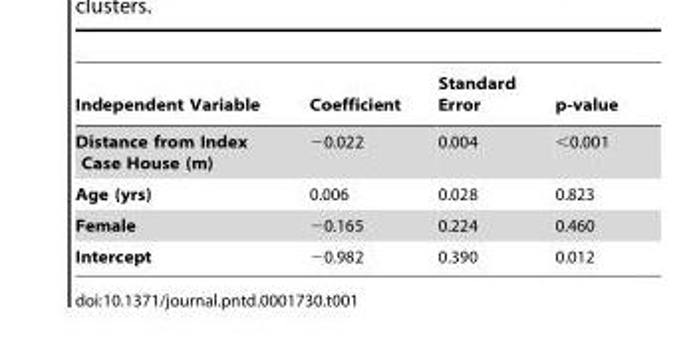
<table><thead><tr><td>Independent Variable</td><td>Coefficient</td><td>Standard Error</td><td>p-value</td></tr></thead><tbody><tr><td>Distance from Index Case House (m)</td><td>−0.022</td><td>0.004</td><td>&lt;0.001</td></tr><tr><td>Age (yrs)</td><td>0.006</td><td>0.028</td><td>0.823</td></tr><tr><td>Female</td><td>−0.165</td><td>0.224</td><td>0.460</td></tr><tr><td>Intercept</td><td>−0.982</td><td>0.390</td><td>0.012</td></tr></tbody></table>